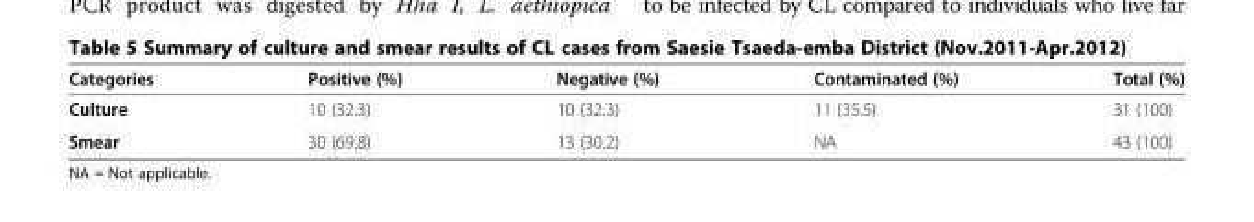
<table><thead><tr><td>Categories</td><td>Positive (%)</td><td>Negative (%)</td><td>Contaminated (%)</td><td>Total (%)</td></tr></thead><tbody><tr><td>Culture</td><td>10 (32.3)</td><td>10 (32.3)</td><td>11 (35.5)</td><td>31 (100)</td></tr><tr><td>Smear</td><td>30 (69.8)</td><td>13 (30.2)</td><td>NA</td><td>43 (100)</td></tr></tbody></table>